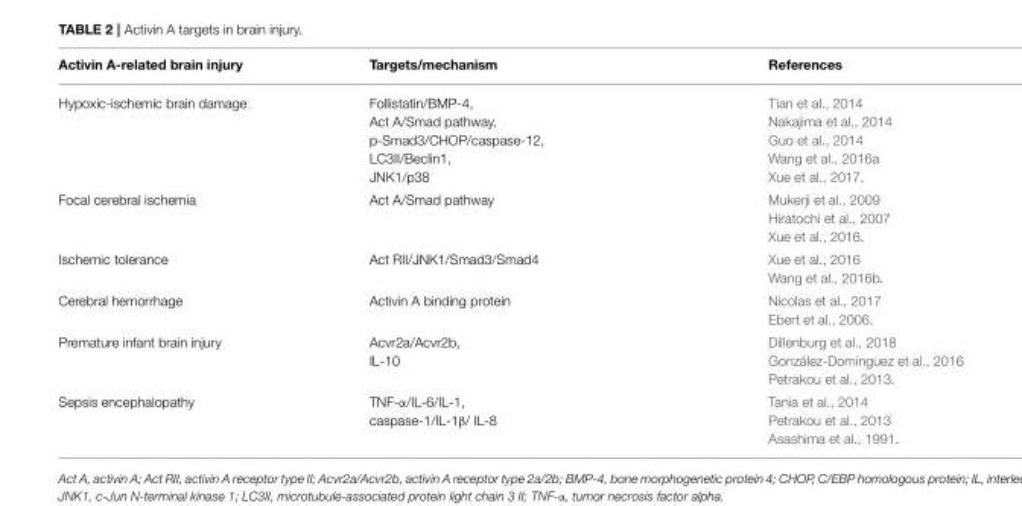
<table><thead><tr><td>Activin A-related brain injury</td><td>Targets/mechanism</td><td>References</td></tr></thead><tbody><tr><td>Hypoxic-ischemic brain damage</td><td>Follistatin/BMP-4, Act A/Smad pathway, p-Smad3/CHOP/caspase-12, LC3II/Beclin1, JNK1/p38</td><td>Tian et al., 2014 Nakajima et al., 2014 Guo et al., 2014 Wang et al., 2016a Xue et al., 2017.</td></tr><tr><td>Focal cerebral ischemia</td><td>Act A/Smad pathway</td><td>Mukerji et al., 2009 Hiratochi et al., 2007 Xue et al., 2016.</td></tr><tr><td>Ischemic tolerance</td><td>Act RII/JNK1/Smad3/Smad4</td><td>Xue et al., 2016 Wang et al., 2016b.</td></tr><tr><td>Cerebral hemorrhage</td><td>Activin A binding protein</td><td>Nicolas et al., 2017 Ebert et al., 2006.</td></tr><tr><td>Premature infant brain injury</td><td>Acvr2a/Acvr2b, IL-10</td><td>Dillenburg et al., 2018 González-Domínguez et al., 2016 Petrakou et al., 2013.</td></tr><tr><td>Sepsis encephalopathy</td><td>TNF-α/IL-6/IL-1, caspase-1/IL-1β/ IL-8</td><td>Tania et al., 2014 Petrakou et al., 2013 Asashima et al., 1991.</td></tr></tbody></table>